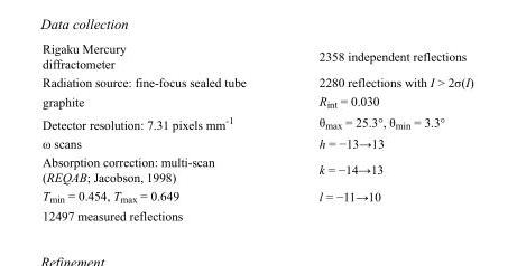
<table><tbody><tr><td>Rigaku Mercury diffractometer</td><td>2358 independent reflections</td></tr><tr><td>Radiation source: fine-focus sealed tube</td><td>2280 reflections with I &gt; 2σ(I)</td></tr><tr><td>graphite</td><td>R<sub>int</sub> = 0.030</td></tr><tr><td>Detector resolution: 7.31 pixels mm<sup>-1</sup></td><td>θ<sub>max</sub> = 25.3°, θ<sub>min</sub> = 3.3°</td></tr><tr><td>ω scans</td><td>h = −13→13</td></tr><tr><td>Absorption correction: multi-scan (REQAB; Jacobson, 1998)</td><td>k = −14→13</td></tr><tr><td>T<sub>min</sub> = 0.454, T<sub>max</sub> = 0.649</td><td>l = −11→10</td></tr><tr><td>12497 measured reflections</td><td></td></tr></tbody></table>